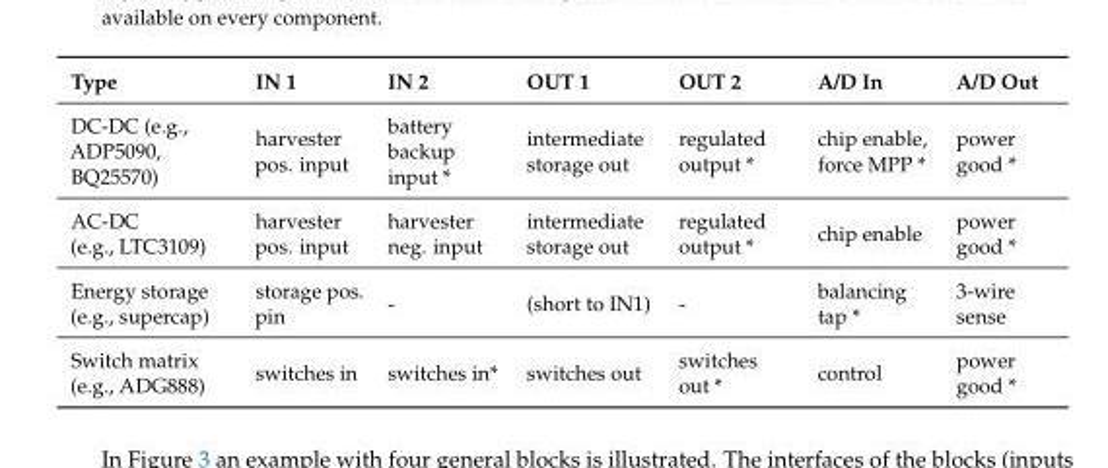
<table><thead><tr><td>Type</td><td>IN 1</td><td>IN 2</td><td>OUT 1</td><td>OUT 2</td><td>A/D In</td><td>A/D Out</td></tr></thead><tbody><tr><td>DC-DC (e.g., ADP5090, BQ25570)</td><td>harvester pos. input</td><td>battery backup input *</td><td>intermediate storage out</td><td>regulated output *</td><td>chip enable, force MPP *</td><td>power good *</td></tr><tr><td>AC-DC (e.g., LTC3109)</td><td>harvester pos. input</td><td>harvester neg. input</td><td>intermediate storage out</td><td>regulated output *</td><td>chip enable</td><td>power good *</td></tr><tr><td>Energy storage (e.g., supercap)</td><td>storage pos. pin</td><td>-</td><td>(short to IN1)</td><td>-</td><td>balancing tap *</td><td>3-wire sense</td></tr><tr><td>Switch matrix (e.g., ADG888)</td><td>switches in</td><td>switches in*</td><td>switches out</td><td>switches out *</td><td>control</td><td>power good *</td></tr></tbody></table>